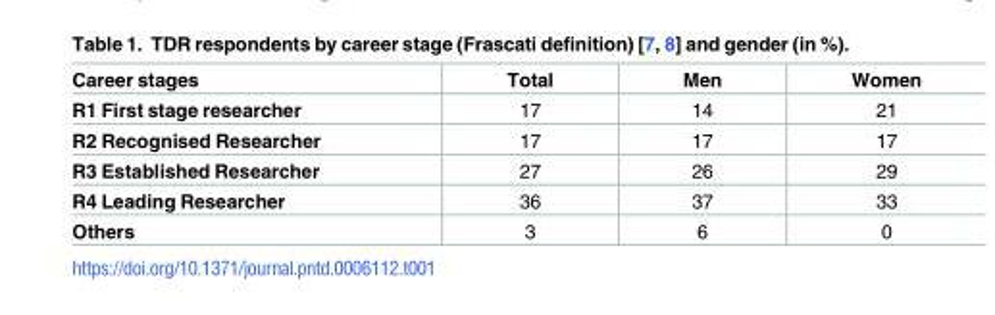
<table><thead><tr><td>Career stages</td><td>Total</td><td>Men</td><td>Women</td></tr></thead><tbody><tr><td>R1 First stage researcher</td><td>17</td><td>14</td><td>21</td></tr><tr><td>R2 Recognised Researcher</td><td>17</td><td>17</td><td>17</td></tr><tr><td>R3 Established Researcher</td><td>27</td><td>26</td><td>29</td></tr><tr><td>R4 Leading Researcher</td><td>36</td><td>37</td><td>33</td></tr><tr><td>Others</td><td>3</td><td>6</td><td>0</td></tr></tbody></table>